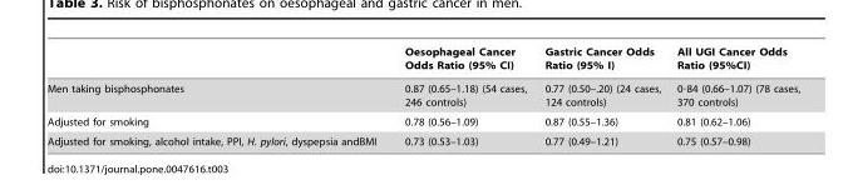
<table><thead><tr><td></td><td>Oesophageal Cancer Odds Ratio (95% CI)</td><td>Gastric Cancer Odds Ratio (95% I)</td><td>All UGI Cancer Odds Ratio (95%CI)</td></tr></thead><tbody><tr><td>Men taking bisphosphonates</td><td>0.87 (0.65–1.18) (54 cases, 246 controls)</td><td>0.77 (0.50–.20) (24 cases, 124 controls)</td><td>0·84 (0.66–1.07) (78 cases, 370 controls)</td></tr><tr><td>Adjusted for smoking</td><td>0.78 (0.56–1.09)</td><td>0.87 (0.55–1.36)</td><td>0.81 (0.62–1.06)</td></tr><tr><td>Adjusted for smoking, alcohol intake, PPI, H. pylori, dyspepsia andBMI</td><td>0.73 (0.53–1.03)</td><td>0.77 (0.49–1.21)</td><td>0.75 (0.57–0.98)</td></tr></tbody></table>